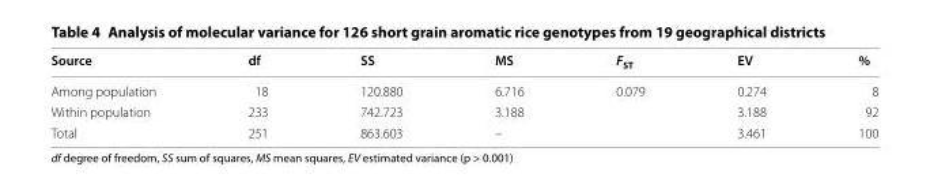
<table><thead><tr><td>Source</td><td>df</td><td>SS</td><td>MS</td><td>F<sub>ST</sub></td><td>EV</td><td>%</td></tr></thead><tbody><tr><td>Among population</td><td>18</td><td>120.880</td><td>6.716</td><td>0.079</td><td>0.274</td><td>8</td></tr><tr><td>Within population</td><td>233</td><td>742.723</td><td>3.188</td><td></td><td>3.188</td><td>92</td></tr><tr><td>Total</td><td>251</td><td>863.603</td><td>–</td><td></td><td>3.461</td><td>100</td></tr></tbody></table>